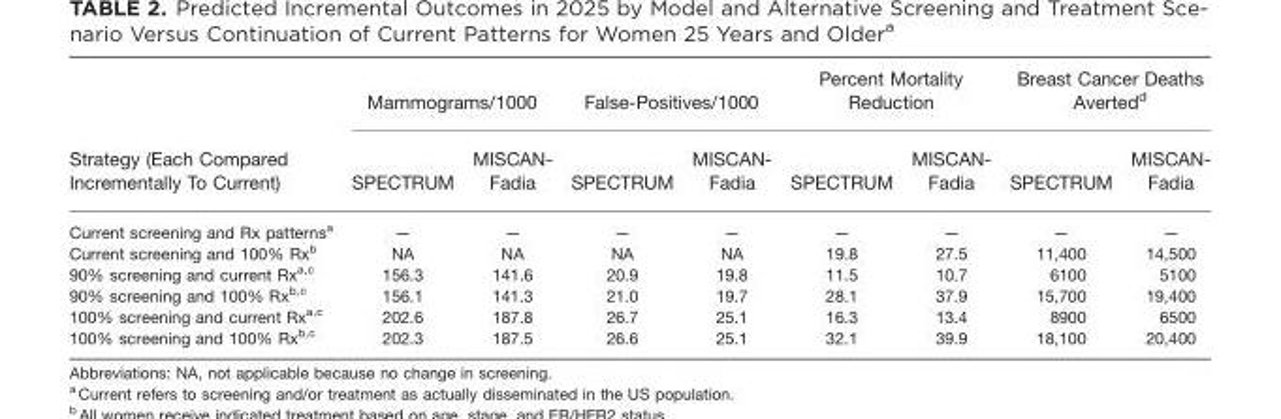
<table><thead><tr><td rowspan="2">Strategy (Each Compared Incrementally To Current)</td><td colspan="2">Mammograms/1000</td><td colspan="2">False-Positives/1000</td><td colspan="2">Percent Mortality Reduction</td><td colspan="2">Breast Cancer Deaths Averted<sup>d</sup></td></tr><tr><td>SPECTRUM</td><td>MISCAN- Fadia</td><td>SPECTRUM</td><td>MISCAN- Fadia</td><td>SPECTRUM</td><td>MISCAN- Fadia</td><td>SPECTRUM</td><td>MISCAN- Fadia</td></tr></thead><tbody><tr><td>Current screening and Rx patterns<sup>a</sup></td><td>—</td><td>—</td><td>—</td><td>—</td><td>—</td><td>—</td><td>—</td><td>—</td></tr><tr><td>Current screening and 100% Rx<sup>b</sup></td><td>NA</td><td>NA</td><td>NA</td><td>NA</td><td>19.8</td><td>27.5</td><td>11,400</td><td>14,500</td></tr><tr><td>90% screening and current Rx<sup>a</sup>,<sup>c</sup></td><td>156.3</td><td>141.6</td><td>20.9</td><td>19.8</td><td>11.5</td><td>10.7</td><td>6100</td><td>5100</td></tr><tr><td>90% screening and 100% Rx<sup>b</sup>,<sup>c</sup></td><td>156.1</td><td>141.3</td><td>21.0</td><td>19.7</td><td>28.1</td><td>37.9</td><td>15,700</td><td>19,400</td></tr><tr><td>100% screening and current Rx<sup>a</sup>,<sup>c</sup></td><td>202.6</td><td>187.8</td><td>26.7</td><td>25.1</td><td>16.3</td><td>13.4</td><td>8900</td><td>6500</td></tr><tr><td>100% screening and 100% Rx<sup>b</sup>,<sup>c</sup></td><td>202.3</td><td>187.5</td><td>26.6</td><td>25.1</td><td>32.1</td><td>39.9</td><td>18,100</td><td>20,400</td></tr></tbody></table>